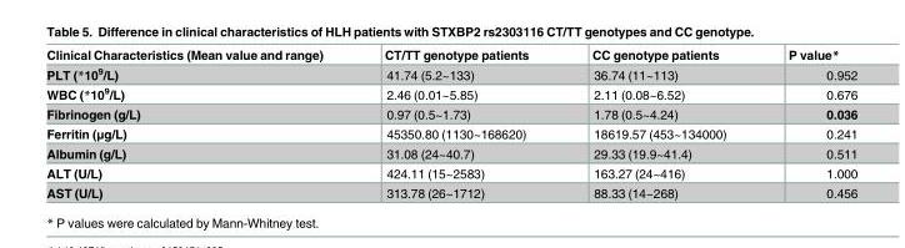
<table><thead><tr><td>Clinical Characteristics (Mean value and range)</td><td>CT/TT genotype patients</td><td>CC genotype patients</td><td>P value*</td></tr></thead><tbody><tr><td>PLT (*10<sup>9</sup>/L)</td><td>41.74 (5.2~133)</td><td>36.74 (11~113)</td><td>0.952</td></tr><tr><td>WBC (*10<sup>9</sup>/L)</td><td>2.46 (0.01~5.85)</td><td>2.11 (0.08~6.52)</td><td>0.676</td></tr><tr><td>Fibrinogen (g/L)</td><td>0.97 (0.5~1.73)</td><td>1.78 (0.5~4.24)</td><td>0.036</td></tr><tr><td>Ferritin (μg/L)</td><td>45350.80 (1130~168620)</td><td>18619.57 (453~134000)</td><td>0.241</td></tr><tr><td>Albumin (g/L)</td><td>31.08 (24~40.7)</td><td>29.33 (19.9~41.4)</td><td>0.511</td></tr><tr><td>ALT (U/L)</td><td>424.11 (15~2583)</td><td>163.27 (24~416)</td><td>1.000</td></tr><tr><td>AST (U/L)</td><td>313.78 (26~1712)</td><td>88.33 (14~268)</td><td>0.456</td></tr></tbody></table>